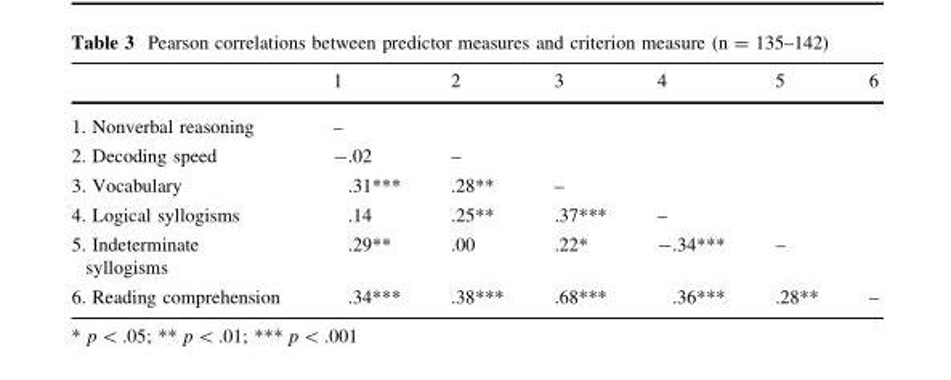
<table><thead><tr><td></td><td>1</td><td>2</td><td>3</td><td>4</td><td>5</td><td>6</td></tr></thead><tbody><tr><td>1. Nonverbal reasoning</td><td>–</td><td></td><td></td><td></td><td></td><td></td></tr><tr><td>2. Decoding speed</td><td>-.02</td><td>–</td><td></td><td></td><td></td><td></td></tr><tr><td>3. Vocabulary</td><td>.31***</td><td>.28**</td><td>–</td><td></td><td></td><td></td></tr><tr><td>4. Logical syllogisms</td><td>.14</td><td>.25**</td><td>.37***</td><td>–</td><td></td><td></td></tr><tr><td>5. Indeterminate syllogisms</td><td>.29**</td><td>.00</td><td>.22*</td><td>-.34***</td><td>–</td><td></td></tr><tr><td>6. Reading comprehension</td><td>.34***</td><td>.38***</td><td>.68***</td><td>.36***</td><td>.28**</td><td>–</td></tr></tbody></table>